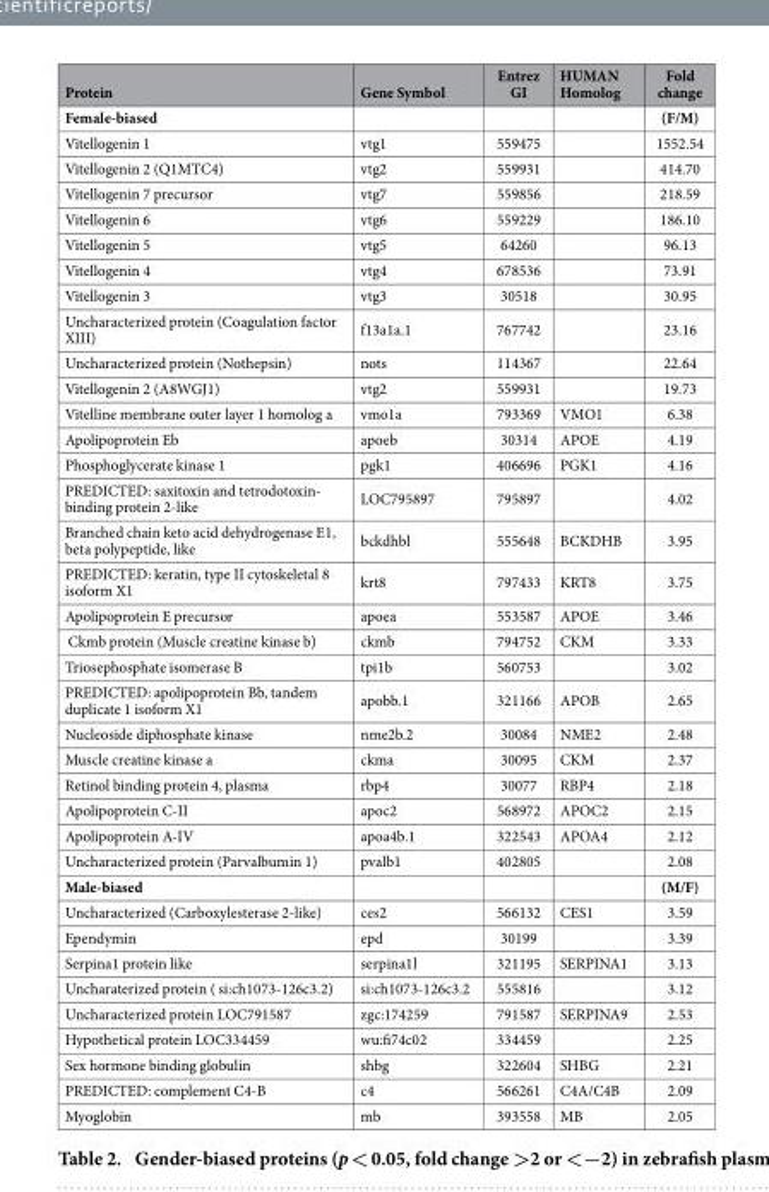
<table><thead><tr><td>Protein</td><td>Gene Symbol</td><td>Entrez GI</td><td>HUMAN Homolog</td><td>Fold change</td></tr></thead><tbody><tr><td>Female-biased</td><td></td><td></td><td></td><td>(F/M)</td></tr><tr><td>Vitellogenin 1</td><td>vtg1</td><td>559475</td><td></td><td>1552.54</td></tr><tr><td>Vitellogenin 2 (Q1MTC4)</td><td>vtg2</td><td>559931</td><td></td><td>414.70</td></tr><tr><td>Vitellogenin 7 precursor</td><td>vtg7</td><td>559856</td><td></td><td>218.59</td></tr><tr><td>Vitellogenin 6</td><td>vtg6</td><td>559229</td><td></td><td>186.10</td></tr><tr><td>Vitellogenin 5</td><td>vtg5</td><td>64260</td><td></td><td>96.13</td></tr><tr><td>Vitellogenin 4</td><td>vtg4</td><td>678536</td><td></td><td>73.91</td></tr><tr><td>Vitellogenin 3</td><td>vtg3</td><td>30518</td><td></td><td>30.95</td></tr><tr><td>Uncharacterized protein (Coagulation factor XIII)</td><td>f13a1a.1</td><td>767742</td><td></td><td>23.16</td></tr><tr><td>Uncharacterized protein (Nothepsin)</td><td>nots</td><td>114367</td><td></td><td>22.64</td></tr><tr><td>Vitellogenin 2 (A8WGJ1)</td><td>vtg2</td><td>559931</td><td></td><td>19.73</td></tr><tr><td>Vitelline membrane outer layer 1 homolog a</td><td>vmo1a</td><td>793369</td><td>VMO1</td><td>6.38</td></tr><tr><td>Apolipoprotein Eb</td><td>apoeb</td><td>30314</td><td>APOE</td><td>4.19</td></tr><tr><td>Phosphoglycerate kinase 1</td><td>pgk1</td><td>406696</td><td>PGK1</td><td>4.16</td></tr><tr><td>PREDICTED: saxitoxin and tetrodotoxin- binding protein 2-like</td><td>LOC795897</td><td>795897</td><td></td><td>4.02</td></tr><tr><td>Branched chain keto acid dehydrogenase E1, beta polypeptide, like</td><td>bckdhbl</td><td>555648</td><td>BCKDHB</td><td>3.95</td></tr><tr><td>PREDICTED: keratin, type II cytoskeletal 8 isoform X1</td><td>krt8</td><td>797433</td><td>KRT8</td><td>3.75</td></tr><tr><td>Apolipoprotein E precursor</td><td>apoea</td><td>553587</td><td>APOE</td><td>3.46</td></tr><tr><td>Ckmb protein (Muscle creatine kinase b)</td><td>ckmb</td><td>794752</td><td>CKM</td><td>3.33</td></tr><tr><td>Triosephosphate isomerase B</td><td>tpi1b</td><td>560753</td><td></td><td>3.02</td></tr><tr><td>PREDICTED: apolipoprotein Bb, tandem duplicate 1 isoform X1</td><td>apobb.1</td><td>321166</td><td>APOB</td><td>2.65</td></tr><tr><td>Nucleoside diphosphate kinase</td><td>nme2b.2</td><td>30084</td><td>NME2</td><td>2.48</td></tr><tr><td>Muscle creatine kinase a</td><td>ckma</td><td>30095</td><td>CKM</td><td>2.37</td></tr><tr><td>Retinol binding protein 4, plasma</td><td>rbp4</td><td>30077</td><td>RBP4</td><td>2.18</td></tr><tr><td>Apolipoprotein C-II</td><td>apoc2</td><td>568972</td><td>APOC2</td><td>2.15</td></tr><tr><td>Apolipoprotein A-IV</td><td>apoa4b.1</td><td>322543</td><td>APOA4</td><td>2.12</td></tr><tr><td>Uncharacterized protein (Parvalbumin 1)</td><td>pvalb1</td><td>402805</td><td></td><td>2.08</td></tr><tr><td>Male-biased</td><td></td><td></td><td></td><td>(M/F)</td></tr><tr><td>Uncharacterized (Carboxylesterase 2-like)</td><td>ces2</td><td>566132</td><td>CES1</td><td>3.59</td></tr><tr><td>Ependymin</td><td>epd</td><td>30199</td><td></td><td>3.39</td></tr><tr><td>Serpina1 protein like</td><td>serpina1l</td><td>321195</td><td>SERPINA1</td><td>3.13</td></tr><tr><td>Uncharaterized protein ( si:ch1073-126c3.2)</td><td>si:ch1073-126c3.2</td><td>555816</td><td></td><td>3.12</td></tr><tr><td>Uncharacterized protein LOC791587</td><td>zgc:174259</td><td>791587</td><td>SERPINA9</td><td>2.53</td></tr><tr><td>Hypothetical protein LOC334459</td><td>wu:fi74c02</td><td>334459</td><td></td><td>2.25</td></tr><tr><td>Sex hormone binding globulin</td><td>shbg</td><td>322604</td><td>SHBG</td><td>2.21</td></tr><tr><td>PREDICTED: complement C4-B</td><td>c4</td><td>566261</td><td>C4A/C4B</td><td>2.09</td></tr><tr><td>Myoglobin</td><td>mb</td><td>393558</td><td>MB</td><td>2.05</td></tr></tbody></table>